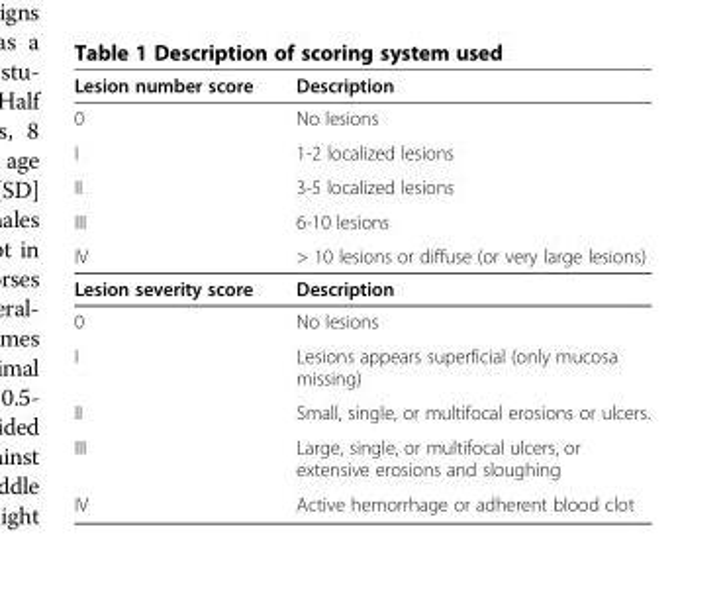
<table><thead><tr><td>Lesion number score</td><td>Description</td></tr></thead><tbody><tr><td>0</td><td>No lesions</td></tr><tr><td>I</td><td>1-2 localized lesions</td></tr><tr><td>II</td><td>3-5 localized lesions</td></tr><tr><td>III</td><td>6-10 lesions</td></tr><tr><td>IV</td><td>&gt; 10 lesions or diffuse (or very large lesions)</td></tr><tr><td>Lesion severity score</td><td>Description</td></tr><tr><td>0</td><td>No lesions</td></tr><tr><td>I</td><td>Lesions appears superficial (only mucosa missing)</td></tr><tr><td>II</td><td>Small, single, or multifocal erosions or ulcers.</td></tr><tr><td>III</td><td>Large, single, or multifocal ulcers, or extensive erosions and sloughing</td></tr><tr><td>IV</td><td>Active hemorrhage or adherent blood clot</td></tr></tbody></table>